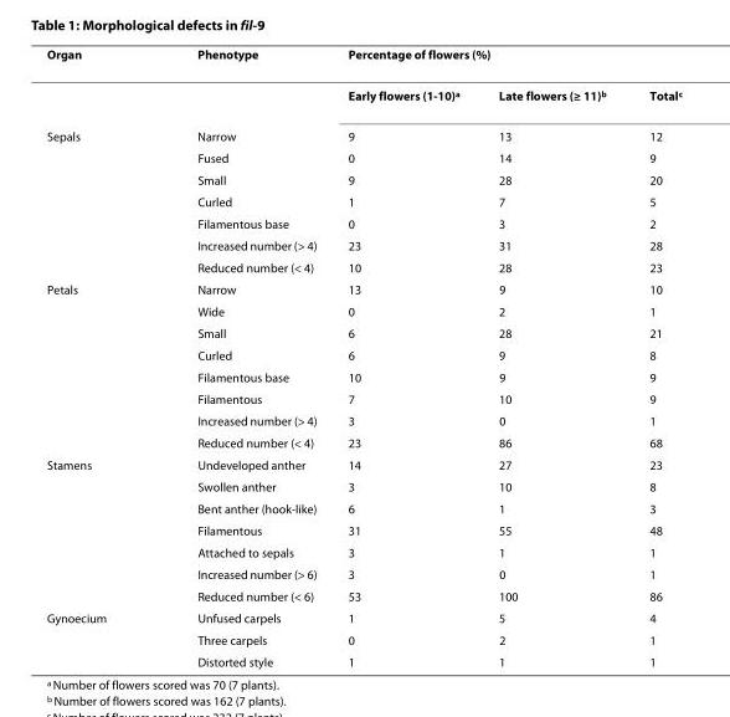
<table><thead><tr><td rowspan="2">Organ</td><td rowspan="2">Phenotype</td><td colspan="3">Percentage of flowers (%)</td></tr><tr><td>Early flowers (1-10)<sup>a</sup></td><td>Late flowers (≥ 11)<sup>b</sup></td><td>Total<sup>c</sup></td></tr></thead><tbody><tr><td rowspan="7">Sepals</td><td>Narrow</td><td>9</td><td>13</td><td>12</td></tr><tr><td>Fused</td><td>0</td><td>14</td><td>9</td></tr><tr><td>Small</td><td>9</td><td>28</td><td>20</td></tr><tr><td>Curled</td><td>1</td><td>7</td><td>5</td></tr><tr><td>Filamentous base</td><td>0</td><td>3</td><td>2</td></tr><tr><td>Increased number (&gt; 4)</td><td>23</td><td>31</td><td>28</td></tr><tr><td>Reduced number (&lt; 4)</td><td>10</td><td>28</td><td>23</td></tr><tr><td rowspan="8">Petals</td><td>Narrow</td><td>13</td><td>9</td><td>10</td></tr><tr><td>Wide</td><td>0</td><td>2</td><td>1</td></tr><tr><td>Small</td><td>6</td><td>28</td><td>21</td></tr><tr><td>Curled</td><td>6</td><td>9</td><td>8</td></tr><tr><td>Filamentous base</td><td>10</td><td>9</td><td>9</td></tr><tr><td>Filamentous</td><td>7</td><td>10</td><td>9</td></tr><tr><td>Increased number (&gt; 4)</td><td>3</td><td>0</td><td>1</td></tr><tr><td>Reduced number (&lt; 4)</td><td>23</td><td>86</td><td>68</td></tr><tr><td rowspan="7">Stamens</td><td>Undeveloped anther</td><td>14</td><td>27</td><td>23</td></tr><tr><td>Swollen anther</td><td>3</td><td>10</td><td>8</td></tr><tr><td>Bent anther (hook-like)</td><td>6</td><td>1</td><td>3</td></tr><tr><td>Filamentous</td><td>31</td><td>55</td><td>48</td></tr><tr><td>Attached to sepals</td><td>3</td><td>1</td><td>1</td></tr><tr><td>Increased number (&gt; 6)</td><td>3</td><td>0</td><td>1</td></tr><tr><td>Reduced number (&lt; 6)</td><td>53</td><td>100</td><td>86</td></tr><tr><td rowspan="3">Gynoecium</td><td>Unfused carpels</td><td>1</td><td>5</td><td>4</td></tr><tr><td>Three carpels</td><td>0</td><td>2</td><td>1</td></tr><tr><td>Distorted style</td><td>1</td><td>1</td><td>1</td></tr></tbody></table>